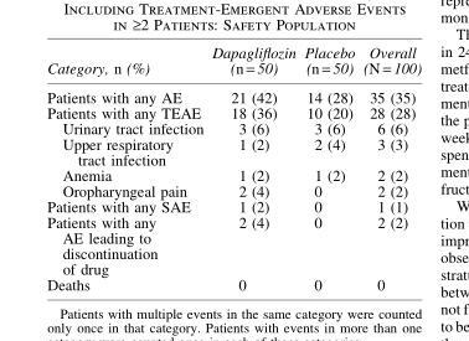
<table><thead><tr><td>Category, n (%)</td><td>Dapagliflozin (n = 50)</td><td>Placebo (n = 50)</td><td>Overall (N = 100)</td></tr></thead><tbody><tr><td>Patients with any AE</td><td>21 (42)</td><td>14 (28)</td><td>35 (35)</td></tr><tr><td>Patients with any TEAE</td><td>18 (36)</td><td>10 (20)</td><td>28 (28)</td></tr><tr><td>Urinary tract infection</td><td>3 (6)</td><td>3 (6)</td><td>6 (6)</td></tr><tr><td>Upper respiratory tract infection</td><td>1 (2)</td><td>2 (4)</td><td>3 (3)</td></tr><tr><td>Anemia</td><td>1 (2)</td><td>1 (2)</td><td>2 (2)</td></tr><tr><td>Oropharyngeal pain</td><td>2 (4)</td><td>0</td><td>2 (2)</td></tr><tr><td>Patients with any SAE</td><td>1 (2)</td><td>0</td><td>1 (1)</td></tr><tr><td>Patients with any AE leading to discontinuation of drug</td><td>2 (4)</td><td>0</td><td>2 (2)</td></tr><tr><td>Deaths</td><td>0</td><td>0</td><td>0</td></tr></tbody></table>